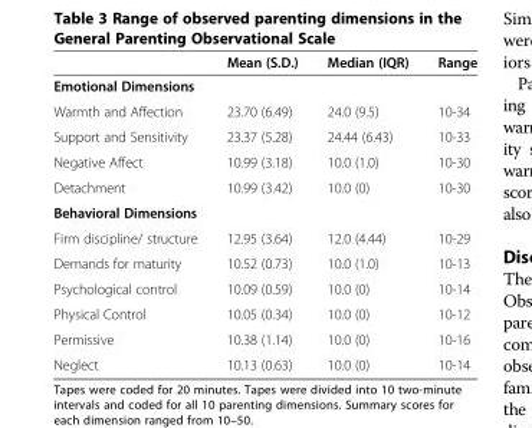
<table><thead><tr><td></td><td>Mean (S.D.)</td><td>Median (IQR)</td><td>Range</td></tr></thead><tbody><tr><td colspan="4">Emotional Dimensions</td></tr><tr><td>Warmth and Affection</td><td>23.70 (6.49)</td><td>24.0 (9.5)</td><td>10-34</td></tr><tr><td>Support and Sensitivity</td><td>23.37 (5.28)</td><td>24.44 (6.43)</td><td>10-33</td></tr><tr><td>Negative Affect</td><td>10.99 (3.18)</td><td>10.0 (1.0)</td><td>10-30</td></tr><tr><td>Detachment</td><td>10.99 (3.42)</td><td>10.0 (0)</td><td>10-30</td></tr><tr><td colspan="4">Behavioral Dimensions</td></tr><tr><td>Firm discipline/ structure</td><td>12.95 (3.64)</td><td>12.0 (4.44)</td><td>10-29</td></tr><tr><td>Demands for maturity</td><td>10.52 (0.73)</td><td>10.0 (1.0)</td><td>10-13</td></tr><tr><td>Psychological control</td><td>10.09 (0.59)</td><td>10.0 (0)</td><td>10-14</td></tr><tr><td>Physical Control</td><td>10.05 (0.34)</td><td>10.0 (0)</td><td>10-12</td></tr><tr><td>Permissive</td><td>10.38 (1.14)</td><td>10.0 (0)</td><td>10-16</td></tr><tr><td>Neglect</td><td>10.13 (0.63)</td><td>10.0 (0)</td><td>10-14</td></tr></tbody></table>